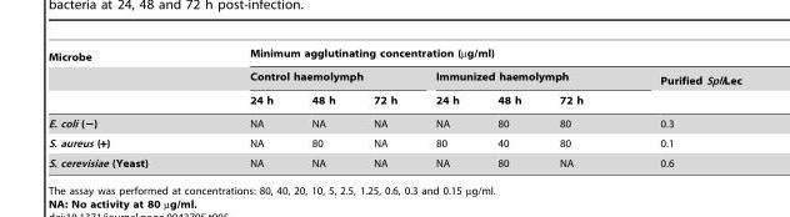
<table><thead><tr><td rowspan="3">Microbe</td><td colspan="7">Minimum agglutinating concentration (µg/ml)</td></tr><tr><td colspan="3">Control haemolymph</td><td colspan="3">Immunized haemolymph</td><td rowspan="2">Purified SpliLec</td></tr><tr><td>24 h</td><td>48 h</td><td>72 h</td><td>24 h</td><td>48 h</td><td>72 h</td></tr></thead><tbody><tr><td>E. coli (−)</td><td>NA</td><td>NA</td><td>NA</td><td>NA</td><td>80</td><td>80</td><td>0.3</td></tr><tr><td>S. aureus (+)</td><td>NA</td><td>80</td><td>NA</td><td>80</td><td>40</td><td>80</td><td>0.1</td></tr><tr><td>S. cerevisiae (Yeast)</td><td>NA</td><td>NA</td><td>NA</td><td>NA</td><td>80</td><td>NA</td><td>0.6</td></tr></tbody></table>